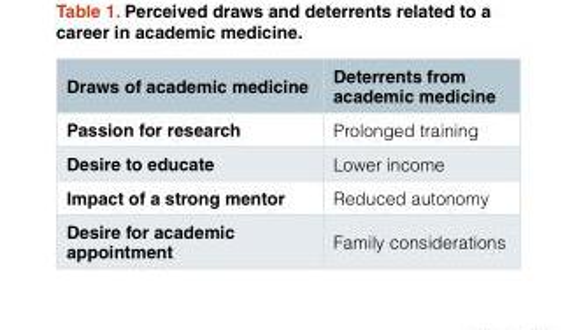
<table><thead><tr><td>Draws of academic medicine</td><td>Deterrents from academic medicine</td></tr></thead><tbody><tr><td>Passion for research</td><td>Prolonged training</td></tr><tr><td>Desire to educate</td><td>Lower income</td></tr><tr><td>Impact of a strong mentor</td><td>Reduced autonomy</td></tr><tr><td>Desire for academic appointment</td><td>Family considerations</td></tr></tbody></table>